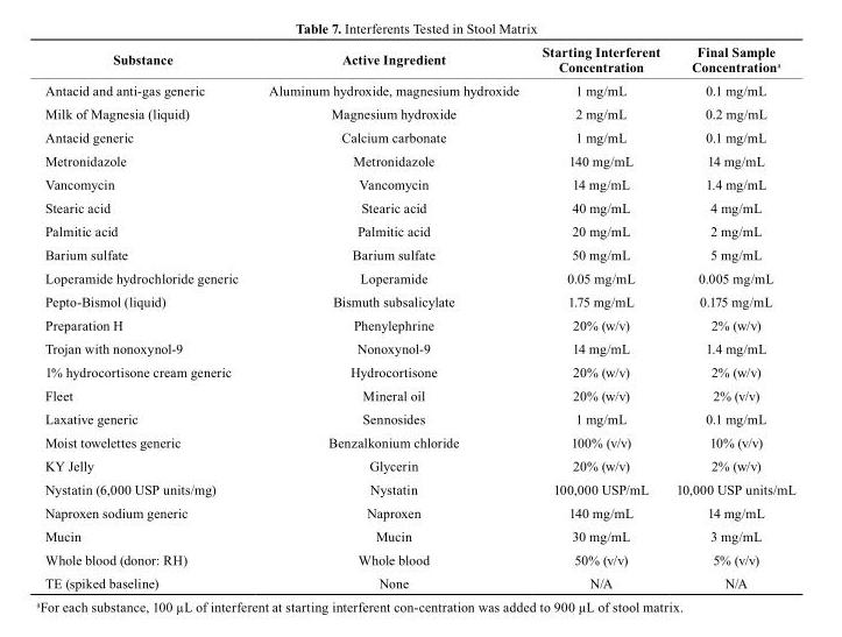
<table><thead><tr><td>substance</td><td>Active Ingredient</td><td>starting Interferent concentration</td><td>Final sample concentration<sup>a</sup></td></tr></thead><tbody><tr><td>Antacid and anti-gas generic</td><td>Aluminum hydroxide, magnesium hydroxide</td><td>1 mg/mL</td><td>0.1 mg/mL</td></tr><tr><td>Milk of Magnesia (liquid)</td><td>Magnesium hydroxide</td><td>2 mg/mL</td><td>0.2 mg/mL</td></tr><tr><td>Antacid generic</td><td>Calcium carbonate</td><td>1 mg/mL</td><td>0.1 mg/mL</td></tr><tr><td>Metronidazole</td><td>Metronidazole</td><td>140 mg/mL</td><td>14 mg/mL</td></tr><tr><td>Vancomycin</td><td>Vancomycin</td><td>14 mg/mL</td><td>1.4 mg/mL</td></tr><tr><td>Stearic acid</td><td>Stearic acid</td><td>40 mg/mL</td><td>4 mg/mL</td></tr><tr><td>Palmitic acid</td><td>Palmitic acid</td><td>20 mg/mL</td><td>2 mg/mL</td></tr><tr><td>Barium sulfate</td><td>Barium sulfate</td><td>50 mg/mL</td><td>5 mg/mL</td></tr><tr><td>Loperamide hydrochloride generic</td><td>Loperamide</td><td>0.05 mg/mL</td><td>0.005 mg/mL</td></tr><tr><td>Pepto-Bismol (liquid)</td><td>Bismuth subsalicylate</td><td>1.75 mg/mL</td><td>0.175 mg/mL</td></tr><tr><td>Preparation H</td><td>Phenylephrine</td><td>20% (w/v)</td><td>2% (w/v)</td></tr><tr><td>Trojan with nonoxynol-9</td><td>Nonoxynol-9</td><td>14 mg/mL</td><td>1.4 mg/mL</td></tr><tr><td>1% hydrocortisone cream generic</td><td>Hydrocortisone</td><td>20% (w/v)</td><td>2% (w/v)</td></tr><tr><td>Fleet</td><td>Mineral oil</td><td>20% (w/v)</td><td>2% (v/v)</td></tr><tr><td>Laxative generic</td><td>Sennosides</td><td>1 mg/mL</td><td>0.1 mg/mL</td></tr><tr><td>Moist towelettes generic</td><td>Benzalkonium chloride</td><td>100% (v/v)</td><td>10% (v/v)</td></tr><tr><td>KY Jelly</td><td>Glycerin</td><td>20% (w/v)</td><td>2% (w/v)</td></tr><tr><td>Nystatin (6,000 USP units/mg)</td><td>Nystatin</td><td>100,000 USP/mL</td><td>10,000 USP units/mL</td></tr><tr><td>Naproxen sodium generic</td><td>Naproxen</td><td>140 mg/mL</td><td>14 mg/mL</td></tr><tr><td>Mucin</td><td>Mucin</td><td>30 mg/mL</td><td>3 mg/mL</td></tr><tr><td>Whole blood (donor: RH)</td><td>Whole blood</td><td>50% (v/v)</td><td>5% (v/v)</td></tr><tr><td>TE (spiked baseline)</td><td>None</td><td>N/A</td><td>N/A</td></tr></tbody></table>